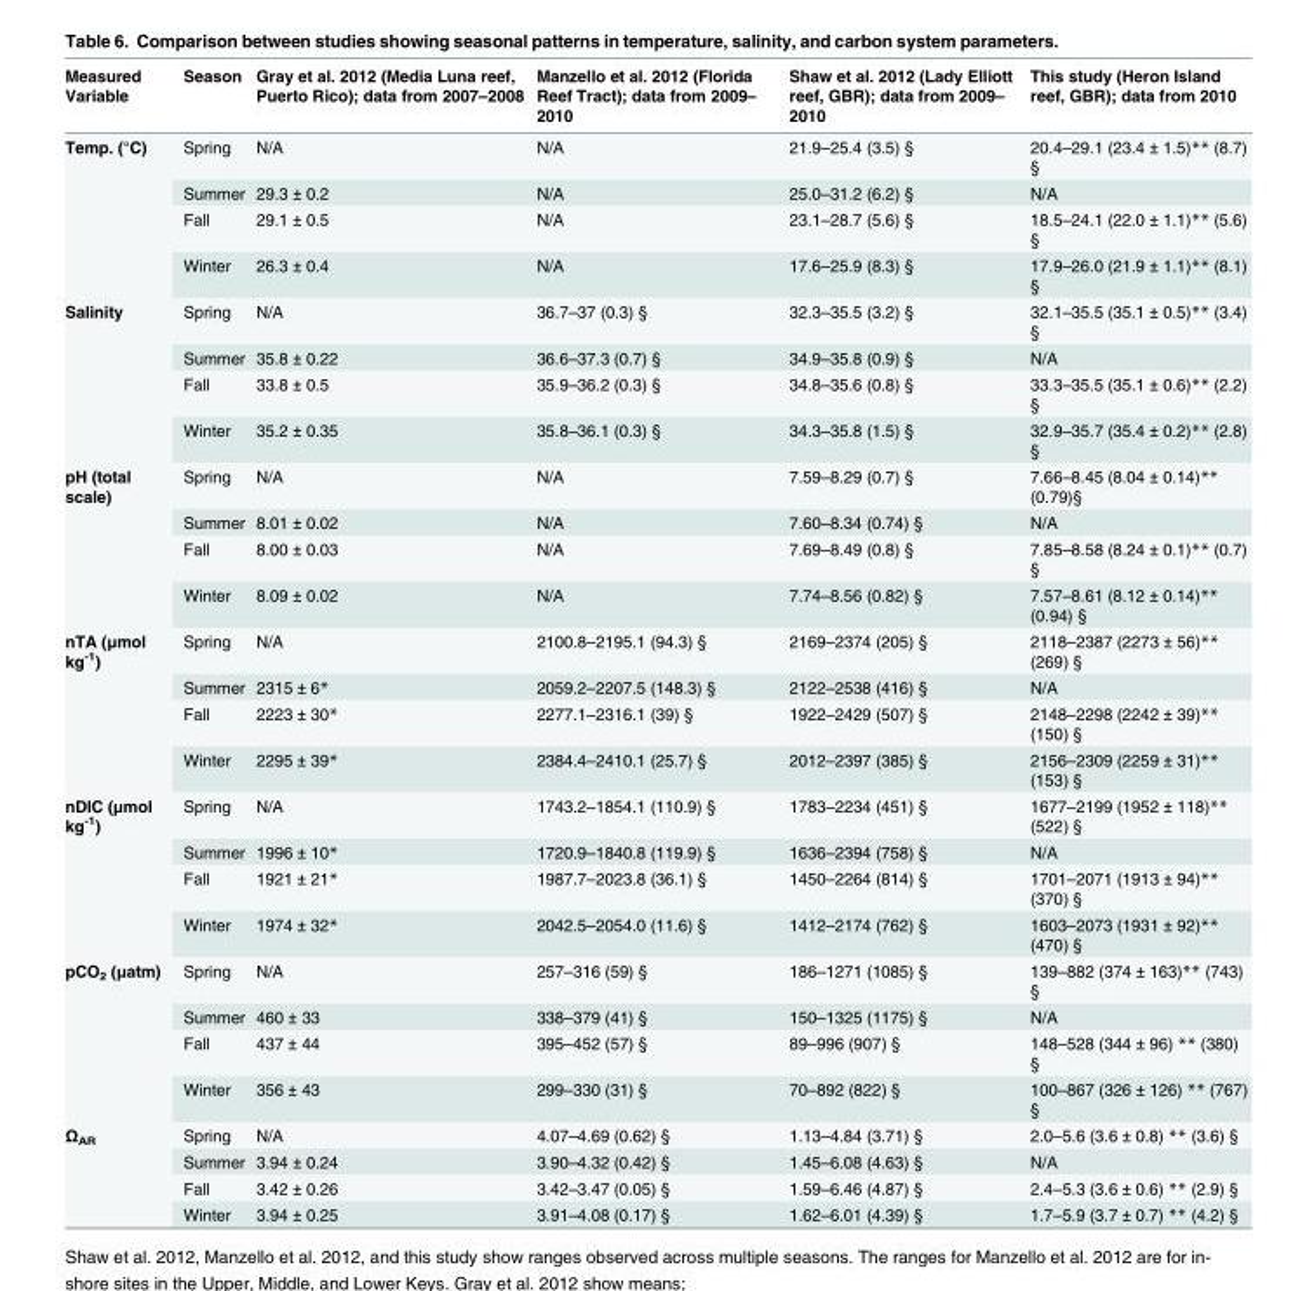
<table><thead><tr><td>Measured Variable</td><td>Season</td><td>Gray et al. 2012 (Media Luna reef, Puerto Rico); data from 2007–2008</td><td>Manzello et al. 2012 (Florida Reef Tract); data from 2009– 2010</td><td>Shaw et al. 2012 (Lady Elliott reef, GBR); data from 2009– 2010</td><td>This study (Heron Island reef, GBR); data from 2010</td></tr></thead><tbody><tr><td rowspan="4">Temp. (°C)</td><td>Spring</td><td>N/A</td><td>N/A</td><td>21.9–25.4 (3.5) §</td><td>20.4–29.1 (23.4 ± 1.5)** (8.7) §</td></tr><tr><td>Summer</td><td>29.3 ± 0.2</td><td>N/A</td><td>25.0–31.2 (6.2) §</td><td>N/A</td></tr><tr><td>Fall</td><td>29.1 ± 0.5</td><td>N/A</td><td>23.1–28.7 (5.6) §</td><td>18.5–24.1 (22.0 ± 1.1)** (5.6) §</td></tr><tr><td>Winter</td><td>26.3 ± 0.4</td><td>N/A</td><td>17.6–25.9 (8.3) §</td><td>17.9–26.0 (21.9 ± 1.1)** (8.1) §</td></tr><tr><td rowspan="4">Salinity</td><td>Spring</td><td>N/A</td><td>36.7–37 (0.3) §</td><td>32.3–35.5 (3.2) §</td><td>32.1–35.5 (35.1 ± 0.5)** (3.4) §</td></tr><tr><td>Summer</td><td>35.8 ± 0.22</td><td>36.6–37.3 (0.7) §</td><td>34.9–35.8 (0.9) §</td><td>N/A</td></tr><tr><td>Fall</td><td>33.8 ± 0.5</td><td>35.9–36.2 (0.3) §</td><td>34.8–35.6 (0.8) §</td><td>33.3–35.5 (35.1 ± 0.6)** (2.2) §</td></tr><tr><td>Winter</td><td>35.2 ± 0.35</td><td>35.8–36.1 (0.3) §</td><td>34.3–35.8 (1.5) §</td><td>32.9–35.7 (35.4 ± 0.2)** (2.8) §</td></tr><tr><td rowspan="4">pH (total scale)</td><td>Spring</td><td>N/A</td><td>N/A</td><td>7.59–8.29 (0.7) §</td><td>7.66–8.45 (8.04 ± 0.14)** (0.79)§</td></tr><tr><td>Summer</td><td>8.01 ± 0.02</td><td>N/A</td><td>7.60–8.34 (0.74) §</td><td>N/A</td></tr><tr><td>Fall</td><td>8.00 ± 0.03</td><td>N/A</td><td>7.69–8.49 (0.8) §</td><td>7.85–8.58 (8.24 ± 0.1)** (0.7) §</td></tr><tr><td>Winter</td><td>8.09 ± 0.02</td><td>N/A</td><td>7.74–8.56 (0.82) §</td><td>7.57–8.61 (8.12 ± 0.14)** (0.94) §</td></tr><tr><td rowspan="4">nTA (μmol kg<sup>-1</sup>)</td><td>Spring</td><td>N/A</td><td>2100.8–2195.1 (94.3) §</td><td>2169–2374 (205) §</td><td>2118–2387 (2273 ± 56)** (269) §</td></tr><tr><td>Summer</td><td>2315 ± 6*</td><td>2059.2–2207.5 (148.3) §</td><td>2122–2538 (416) §</td><td>N/A</td></tr><tr><td>Fall</td><td>2223 ± 30*</td><td>2277.1–2316.1 (39) §</td><td>1922–2429 (507) §</td><td>2148–2298 (2242 ± 39)** (150) §</td></tr><tr><td>Winter</td><td>2295 ± 39*</td><td>2384.4–2410.1 (25.7) §</td><td>2012–2397 (385) §</td><td>2156–2309 (2259 ± 31)** (153) §</td></tr><tr><td rowspan="4">nDIC (μmol kg<sup>-1</sup>)</td><td>Spring</td><td>N/A</td><td>1743.2–1854.1 (110.9) §</td><td>1783–2234 (451) §</td><td>1677–2199 (1952 ± 118)** (522) §</td></tr><tr><td>Summer</td><td>1996 ± 10*</td><td>1720.9–1840.8 (119.9) §</td><td>1636–2394 (758) §</td><td>N/A</td></tr><tr><td>Fall</td><td>1921 ± 21*</td><td>1987.7–2023.8 (36.1) §</td><td>1450–2264 (814) §</td><td>1701–2071 (1913 ± 94)** (370) §</td></tr><tr><td>Winter</td><td>1974 ± 32*</td><td>2042.5–2054.0 (11.6) §</td><td>1412–2174 (762) §</td><td>1603–2073 (1931 ± 92)** (470) §</td></tr><tr><td rowspan="4">pCO<sub>2</sub> (μatm)</td><td>Spring</td><td>N/A</td><td>257–316 (59) §</td><td>186–1271 (1085) §</td><td>139–882 (374 ± 163)** (743) §</td></tr><tr><td>Summer</td><td>460 ± 33</td><td>338–379 (41) §</td><td>150–1325 (1175) §</td><td>N/A</td></tr><tr><td>Fall</td><td>437 ± 44</td><td>395–452 (57) §</td><td>89–996 (907) §</td><td>148–528 (344 ± 96) ** (380) §</td></tr><tr><td>Winter</td><td>356 ± 43</td><td>299–330 (31) §</td><td>70–892 (822) §</td><td>100–867 (326 ± 126) ** (767) §</td></tr><tr><td rowspan="4">Ω<sub>AR</sub></td><td>Spring</td><td>N/A</td><td>4.07–4.69 (0.62) §</td><td>1.13–4.84 (3.71) §</td><td>2.0–5.6 (3.6 ± 0.8) ** (3.6) §</td></tr><tr><td>Summer</td><td>3.94 ± 0.24</td><td>3.90–4.32 (0.42) §</td><td>1.45–6.08 (4.63) §</td><td>N/A</td></tr><tr><td>Fall</td><td>3.42 ± 0.26</td><td>3.42–3.47 (0.05) §</td><td>1.59–6.46 (4.87) §</td><td>2.4–5.3 (3.6 ± 0.6) ** (2.9) §</td></tr><tr><td>Winter</td><td>3.94 ± 0.25</td><td>3.91–4.08 (0.17) §</td><td>1.62–6.01 (4.39) §</td><td>1.7–5.9 (3.7 ± 0.7) ** (4.2) §</td></tr></tbody></table>